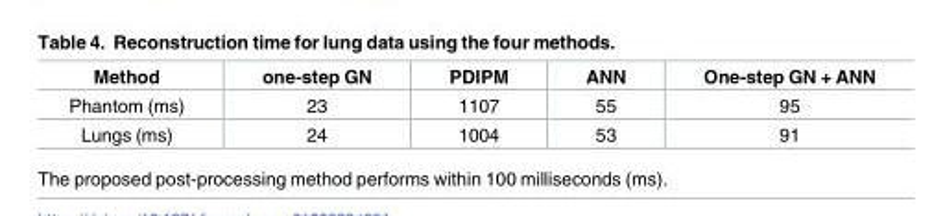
<table><thead><tr><td>Method</td><td>one-step GN</td><td>PDIPM</td><td>ANN</td><td>One-step GN + ANN</td></tr></thead><tbody><tr><td>Phantom (ms)</td><td>23</td><td>1107</td><td>55</td><td>95</td></tr><tr><td>Lungs (ms)</td><td>24</td><td>1004</td><td>53</td><td>91</td></tr></tbody></table>